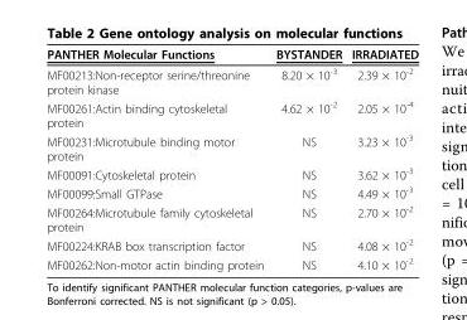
<table><thead><tr><td>PANTHER Molecular Functions</td><td>BYSTANDER</td><td>IRRADIATED</td></tr></thead><tbody><tr><td>MF00213:Non-receptor serine/threonine protein kinase</td><td>8.20 × 10<sup>-3</sup></td><td>2.39 × 10<sup>-2</sup></td></tr><tr><td>MF00261:Actin binding cytoskeletal protein</td><td>4.62 × 10<sup>-2</sup></td><td>2.05 × 10<sup>-4</sup></td></tr><tr><td>MF00231:Microtubule binding motor protein</td><td>NS</td><td>3.23 × 10<sup>-3</sup></td></tr><tr><td>MF00091:Cytoskeletal protein</td><td>NS</td><td>3.62 × 10<sup>-3</sup></td></tr><tr><td>MF00099:Small GTPase</td><td>NS</td><td>4.49 × 10<sup>-3</sup></td></tr><tr><td>MF00264:Microtubule family cytoskeletal protein</td><td>NS</td><td>2.70 × 10<sup>-2</sup></td></tr><tr><td>MF00224:KRAB box transcription factor</td><td>NS</td><td>4.08 × 10<sup>-2</sup></td></tr><tr><td>MF00262:Non-motor actin binding protein</td><td>NS</td><td>4.10 × 10<sup>-2</sup></td></tr></tbody></table>